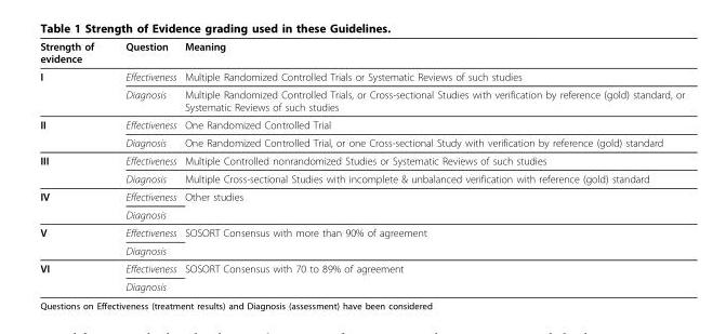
<table><thead><tr><td>Strength of evidence</td><td>Question</td><td>Meaning</td></tr></thead><tbody><tr><td rowspan="2">I</td><td>Effectiveness</td><td>Multiple Randomized Controlled Trials or Systematic Reviews of such studies</td></tr><tr><td>Diagnosis</td><td>Multiple Randomized Controlled Trials, or Cross-sectional Studies with verification by reference (gold) standard, or Systematic Reviews of such studies</td></tr><tr><td rowspan="2">II</td><td>Effectiveness</td><td>One Randomized Controlled Trial</td></tr><tr><td>Diagnosis</td><td>One Randomized Controlled Trial, or one Cross-sectional Study with verification by reference (gold) standard</td></tr><tr><td rowspan="2">III</td><td>Effectiveness</td><td>Multiple Controlled nonrandomized Studies or Systematic Reviews of such studies</td></tr><tr><td>Diagnosis</td><td>Multiple Cross-sectional Studies with incomplete &amp; unbalanced verification with reference (gold) standard</td></tr><tr><td rowspan="2">IV</td><td>Effectiveness</td><td>Other studies</td></tr><tr><td>Diagnosis</td><td></td></tr><tr><td rowspan="2">V</td><td>Effectiveness</td><td>SOSORT Consensus with more than 90% of agreement</td></tr><tr><td>Diagnosis</td><td></td></tr><tr><td rowspan="2">VI</td><td>Effectiveness</td><td>SOSORT Consensus with 70 to 89% of agreement</td></tr><tr><td>Diagnosis</td><td></td></tr></tbody></table>